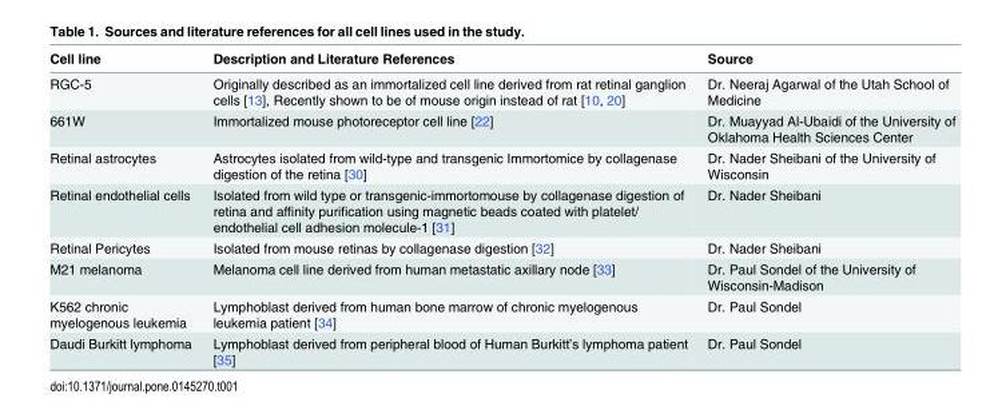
<table><thead><tr><td>Cell line</td><td>Description and Literature References</td><td>Source</td></tr></thead><tbody><tr><td>RGC-5</td><td>Originally described as an immortalized cell line derived from rat retinal ganglion cells [13], Recently shown to be of mouse origin instead of rat [10, 20]</td><td>Dr. Neeraj Agarwal of the Utah School of Medicine</td></tr><tr><td>661W</td><td>Immortalized mouse photoreceptor cell line [22]</td><td>Dr. Muayyad Al-Ubaidi of the University of Oklahoma Health Sciences Center</td></tr><tr><td>Retinal astrocytes</td><td>Astrocytes isolated from wild-type and transgenic Immortomice by collagenase digestion of the retina [30]</td><td>Dr. Nader Sheibani of the University of Wisconsin</td></tr><tr><td>Retinal endothelial cells</td><td>Isolated from wild type or transgenic-immortomouse by collagenase digestion of retina and affinity purification using magnetic beads coated with platelet/ endothelial cell adhesion molecule-1 [31]</td><td>Dr. Nader Sheibani</td></tr><tr><td>Retinal Pericytes</td><td>Isolated from mouse retinas by collagenase digestion [32]</td><td>Dr. Nader Sheibani</td></tr><tr><td>M21 melanoma</td><td>Melanoma cell line derived from human metastatic axillary node [33]</td><td>Dr. Paul Sondel of the University of Wisconsin-Madison</td></tr><tr><td>K562 chronic myelogenous leukemia</td><td>Lymphoblast derived from human bone marrow of chronic myelogenous leukemia patient [34]</td><td>Dr. Paul Sondel</td></tr><tr><td>Daudi Burkitt lymphoma</td><td>Lymphoblast derived from peripheral blood of Human Burkitt’s lymphoma patient [35]</td><td>Dr. Paul Sondel</td></tr></tbody></table>